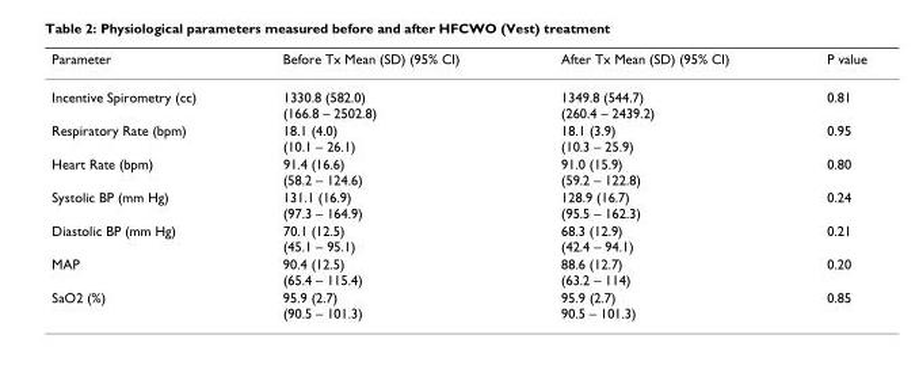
<table><thead><tr><td>Parameter</td><td>Before Tx Mean (SD) (95% CI)</td><td>After Tx Mean (SD) (95% CI)</td><td>P value</td></tr></thead><tbody><tr><td>Incentive Spirometry (cc)</td><td>1330.8 (582.0) (166.8 – 2502.8)</td><td>1349.8 (544.7) (260.4 – 2439.2)</td><td>0.81</td></tr><tr><td>Respiratory Rate (bpm)</td><td>18.1 (4.0) (10.1 – 26.1)</td><td>18.1 (3.9) (10.3 – 25.9)</td><td>0.95</td></tr><tr><td>Heart Rate (bpm)</td><td>91.4 (16.6) (58.2 – 124.6)</td><td>91.0 (15.9) (59.2 – 122.8)</td><td>0.80</td></tr><tr><td>Systolic BP (mm Hg)</td><td>131.1 (16.9) (97.3 – 164.9)</td><td>128.9 (16.7) (95.5 – 162.3)</td><td>0.24</td></tr><tr><td>Diastolic BP (mm Hg)</td><td>70.1 (12.5) (45.1 – 95.1)</td><td>68.3 (12.9) (42.4 – 94.1)</td><td>0.21</td></tr><tr><td>MAP</td><td>90.4 (12.5) (65.4 – 115.4)</td><td>88.6 (12.7) (63.2 – 114)</td><td>0.20</td></tr><tr><td>SaO2 (%)</td><td>95.9 (2.7) (90.5 – 101.3)</td><td>95.9 (2.7) 90.5 – 101.3)</td><td>0.85</td></tr></tbody></table>